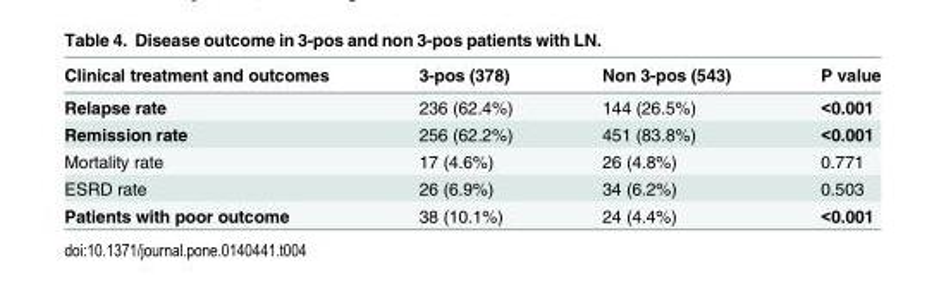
<table><thead><tr><td>Clinical treatment and outcomes</td><td>3-pos (378)</td><td>Non 3-pos (543)</td><td>P value</td></tr></thead><tbody><tr><td>Relapse rate</td><td>236 (62.4%)</td><td>144 (26.5%)</td><td>&lt;0.001</td></tr><tr><td>Remission rate</td><td>256 (62.2%)</td><td>451 (83.8%)</td><td>&lt;0.001</td></tr><tr><td>Mortality rate</td><td>17 (4.6%)</td><td>26 (4.8%)</td><td>0.771</td></tr><tr><td>ESRD rate</td><td>26 (6.9%)</td><td>34 (6.2%)</td><td>0.503</td></tr><tr><td>Patients with poor outcome</td><td>38 (10.1%)</td><td>24 (4.4%)</td><td>&lt;0.001</td></tr></tbody></table>